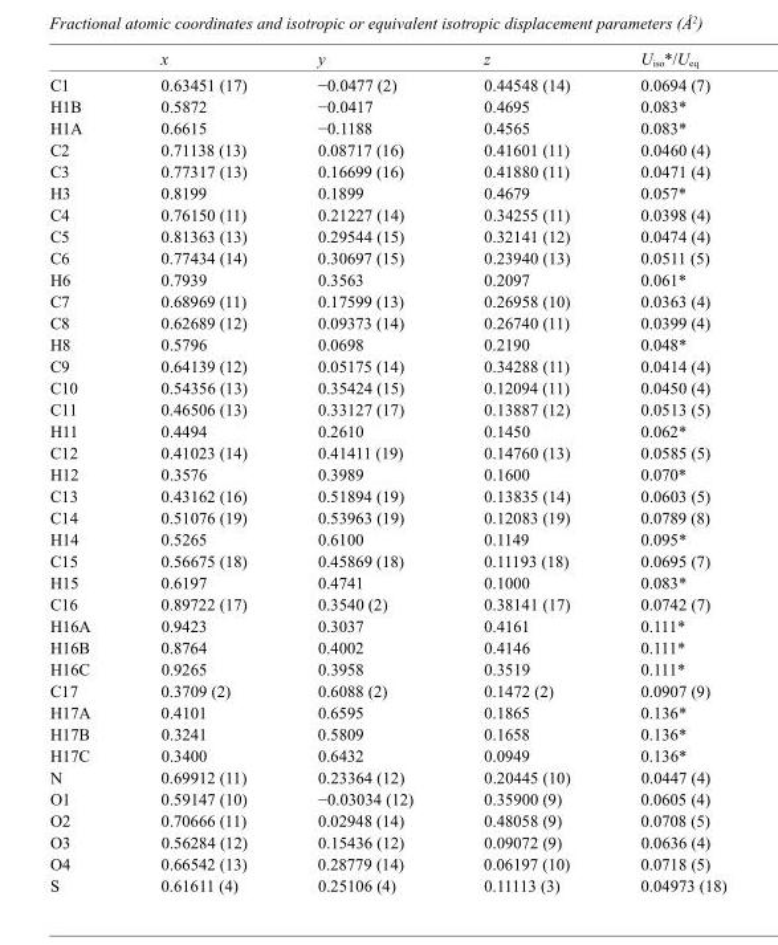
<table><thead><tr><td></td><td>x</td><td>y</td><td>z</td><td>U<sub>iso</sub>*/U<sub>eq</sub></td></tr></thead><tbody><tr><td>C1</td><td>0.63451 (17)</td><td>−0.0477 (2)</td><td>0.44548 (14)</td><td>0.0694 (7)</td></tr><tr><td>H1B</td><td>0.5872</td><td>−0.0417</td><td>0.4695</td><td>0.083*</td></tr><tr><td>H1A</td><td>0.6615</td><td>−0.1188</td><td>0.4565</td><td>0.083*</td></tr><tr><td>C2</td><td>0.71138 (13)</td><td>0.08717 (16)</td><td>0.41601 (11)</td><td>0.0460 (4)</td></tr><tr><td>C3</td><td>0.77317 (13)</td><td>0.16699 (16)</td><td>0.41880 (11)</td><td>0.0471 (4)</td></tr><tr><td>H3</td><td>0.8199</td><td>0.1899</td><td>0.4679</td><td>0.057*</td></tr><tr><td>C4</td><td>0.76150 (11)</td><td>0.21227 (14)</td><td>0.34255 (11)</td><td>0.0398 (4)</td></tr><tr><td>C5</td><td>0.81363 (13)</td><td>0.29544 (15)</td><td>0.32141 (12)</td><td>0.0474 (4)</td></tr><tr><td>C6</td><td>0.77434 (14)</td><td>0.30697 (15)</td><td>0.23940 (13)</td><td>0.0511 (5)</td></tr><tr><td>H6</td><td>0.7939</td><td>0.3563</td><td>0.2097</td><td>0.061*</td></tr><tr><td>C7</td><td>0.68969 (11)</td><td>0.17599 (13)</td><td>0.26958 (10)</td><td>0.0363 (4)</td></tr><tr><td>C8</td><td>0.62689 (12)</td><td>0.09373 (14)</td><td>0.26740 (11)</td><td>0.0399 (4)</td></tr><tr><td>H8</td><td>0.5796</td><td>0.0698</td><td>0.2190</td><td>0.048*</td></tr><tr><td>C9</td><td>0.64139 (12)</td><td>0.05175 (14)</td><td>0.34288 (11)</td><td>0.0414 (4)</td></tr><tr><td>C10</td><td>0.54356 (13)</td><td>0.35424 (15)</td><td>0.12094 (11)</td><td>0.0450 (4)</td></tr><tr><td>C11</td><td>0.46506 (13)</td><td>0.33127 (17)</td><td>0.13887 (12)</td><td>0.0513 (5)</td></tr><tr><td>H11</td><td>0.4494</td><td>0.2610</td><td>0.1450</td><td>0.062*</td></tr><tr><td>C12</td><td>0.41023 (14)</td><td>0.41411 (19)</td><td>0.14760 (13)</td><td>0.0585 (5)</td></tr><tr><td>H12</td><td>0.3576</td><td>0.3989</td><td>0.1600</td><td>0.070*</td></tr><tr><td>C13</td><td>0.43162 (16)</td><td>0.51894 (19)</td><td>0.13835 (14)</td><td>0.0603 (5)</td></tr><tr><td>C14</td><td>0.51076 (19)</td><td>0.53963 (19)</td><td>0.12083 (19)</td><td>0.0789 (8)</td></tr><tr><td>H14</td><td>0.5265</td><td>0.6100</td><td>0.1149</td><td>0.095*</td></tr><tr><td>C15</td><td>0.56675 (18)</td><td>0.45869 (18)</td><td>0.11193 (18)</td><td>0.0695 (7)</td></tr><tr><td>H15</td><td>0.6197</td><td>0.4741</td><td>0.1000</td><td>0.083*</td></tr><tr><td>C16</td><td>0.89722 (17)</td><td>0.3540 (2)</td><td>0.38141 (17)</td><td>0.0742 (7)</td></tr><tr><td>H16A</td><td>0.9423</td><td>0.3037</td><td>0.4161</td><td>0.111*</td></tr><tr><td>H16B</td><td>0.8764</td><td>0.4002</td><td>0.4146</td><td>0.111*</td></tr><tr><td>H16C</td><td>0.9265</td><td>0.3958</td><td>0.3519</td><td>0.111*</td></tr><tr><td>C17</td><td>0.3709 (2)</td><td>0.6088 (2)</td><td>0.1472 (2)</td><td>0.0907 (9)</td></tr><tr><td>H17A</td><td>0.4101</td><td>0.6595</td><td>0.1865</td><td>0.136*</td></tr><tr><td>H17B</td><td>0.3241</td><td>0.5809</td><td>0.1658</td><td>0.136*</td></tr><tr><td>H17C</td><td>0.3400</td><td>0.6432</td><td>0.0949</td><td>0.136*</td></tr><tr><td>N</td><td>0.69912 (11)</td><td>0.23364 (12)</td><td>0.20445 (10)</td><td>0.0447 (4)</td></tr><tr><td>O1</td><td>0.59147 (10)</td><td>−0.03034 (12)</td><td>0.35900 (9)</td><td>0.0605 (4)</td></tr><tr><td>O2</td><td>0.70666 (11)</td><td>0.02948 (14)</td><td>0.48058 (9)</td><td>0.0708 (5)</td></tr><tr><td>O3</td><td>0.56284 (12)</td><td>0.15436 (12)</td><td>0.09072 (9)</td><td>0.0636 (4)</td></tr><tr><td>O4</td><td>0.66542 (13)</td><td>0.28779 (14)</td><td>0.06197 (10)</td><td>0.0718 (5)</td></tr><tr><td>S</td><td>0.61611 (4)</td><td>0.25106 (4)</td><td>0.11113 (3)</td><td>0.04973 (18)</td></tr></tbody></table>